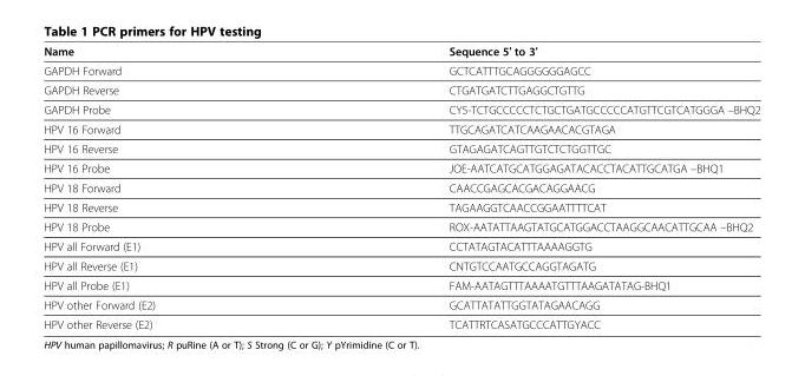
<table><thead><tr><td>Name</td><td>Sequence 5′ to 3′</td></tr></thead><tbody><tr><td>GAPDH Forward</td><td>GCTCATTTGCAGGGGGGAGCC</td></tr><tr><td>GAPDH Reverse</td><td>CTGATGATCTTGAGGCTGTTG</td></tr><tr><td>GAPDH Probe</td><td>CY5-TCTGCCCCCTCTGCTGATGCCCCCATGTTCGTCATGGGA –BHQ2</td></tr><tr><td>HPV 16 Forward</td><td>TTGCAGATCATCAAGAACACGTAGA</td></tr><tr><td>HPV 16 Reverse</td><td>GTAGAGATCAGTTGTCTCTGGTTGC</td></tr><tr><td>HPV 16 Probe</td><td>JOE-AATCATGCATGGAGATACACCTACATTGCATGA –BHQ1</td></tr><tr><td>HPV 18 Forward</td><td>CAACCGAGCACGACAGGAACG</td></tr><tr><td>HPV 18 Reverse</td><td>TAGAAGGTCAACCGGAATTTTCAT</td></tr><tr><td>HPV 18 Probe</td><td>ROX-AATATTAAGTATGCATGGACCTAAGGCAACATTGCAA –BHQ2</td></tr><tr><td>HPV all Forward (E1)</td><td>CCTATAGTACATTTAAAAGGTG</td></tr><tr><td>HPV all Reverse (E1)</td><td>CNTGTCCAATGCCAGGTAGATG</td></tr><tr><td>HPV all Probe (E1)</td><td>FAM-AATAGTTTAAAATGTTTAAGATATAG-BHQ1</td></tr><tr><td>HPV other Forward (E2)</td><td>GCATTATATTGGTATAGAACAGG</td></tr><tr><td>HPV other Reverse (E2)</td><td>TCATTRTCASATGCCCATTGYACC</td></tr></tbody></table>